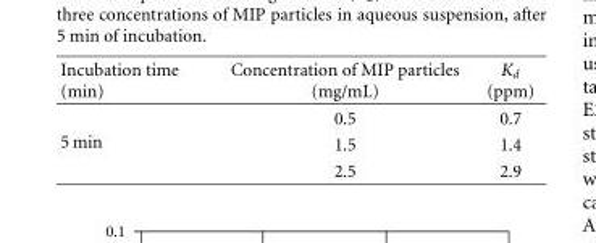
<table><thead><tr><td>Incubation time (min)</td><td>Concentration of MIP particles (mg/mL)</td><td>K<sub>d</sub> (ppm)</td></tr></thead><tbody><tr><td rowspan="3">5 min</td><td>0.5</td><td>0.7</td></tr><tr><td>1.5</td><td>1.4</td></tr><tr><td>2.5</td><td>2.9</td></tr></tbody></table>